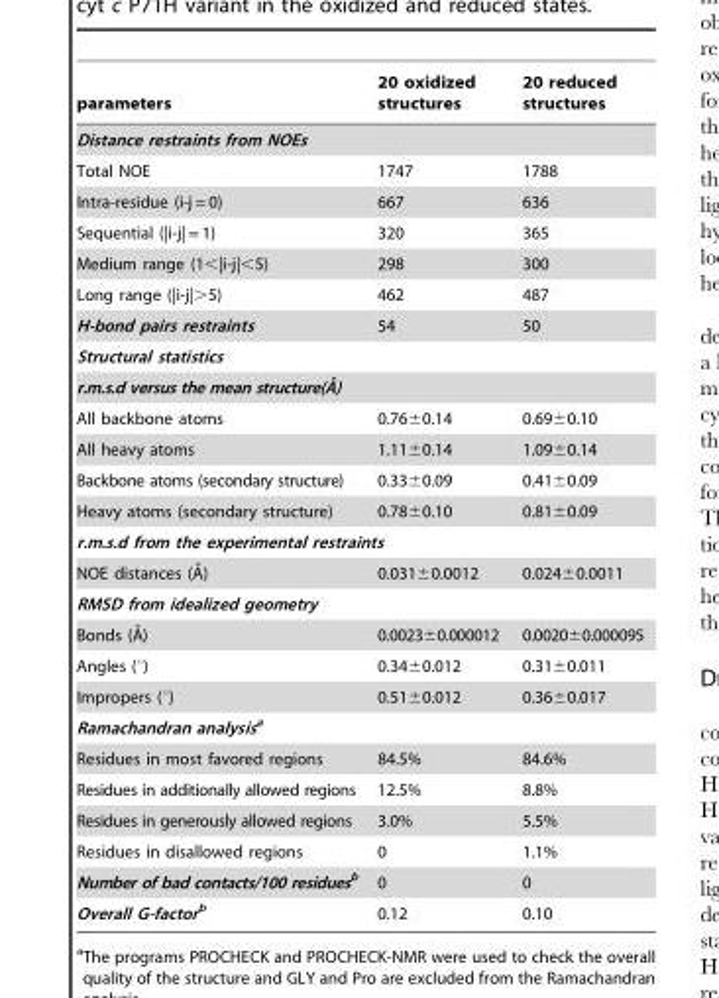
<table><thead><tr><td>parameters</td><td>20 oxidized structures</td><td>20 reduced structures</td></tr></thead><tbody><tr><td colspan="3">Distance restraints from NOEs</td></tr><tr><td>Total NOE</td><td>1747</td><td>1788</td></tr><tr><td>Intra-residue (i-j = 0)</td><td>667</td><td>636</td></tr><tr><td>Sequential (|i-j| = 1)</td><td>320</td><td>365</td></tr><tr><td>Medium range (1&lt;|i-j|&lt;5)</td><td>298</td><td>300</td></tr><tr><td>Long range (|i-j|&gt;5)</td><td>462</td><td>487</td></tr><tr><td>H-bond pairs restraints</td><td>54</td><td>50</td></tr><tr><td colspan="3">Structural statistics</td></tr><tr><td colspan="3">r.m.s.d versus the mean structure(A˚)</td></tr><tr><td>All backbone atoms</td><td>0.76±0.14</td><td>0.69±0.10</td></tr><tr><td>All heavy atoms</td><td>1.11±0.14</td><td>1.09±0.14</td></tr><tr><td>Backbone atoms (secondary structure)</td><td>0.33±0.09</td><td>0.41±0.09</td></tr><tr><td>Heavy atoms (secondary structure)</td><td>0.78±0.10</td><td>0.81±0.09</td></tr><tr><td colspan="3">r.m.s.d from the experimental restraints</td></tr><tr><td>NOE distances (A˚)</td><td>0.031±0.0012</td><td>0.024±0.0011</td></tr><tr><td colspan="3">RMSD from idealized geometry</td></tr><tr><td>Bonds (A˚)</td><td>0.0023±0.000012</td><td>0.0020±0.000095</td></tr><tr><td>Angles (°)</td><td>0.34±0.012</td><td>0.31±0.011</td></tr><tr><td>Impropers (°)</td><td>0.51±0.012</td><td>0.36±0.017</td></tr><tr><td colspan="3">Ramachandran analysisa</td></tr><tr><td>Residues in most favored regions</td><td>84.5%</td><td>84.6%</td></tr><tr><td>Residues in additionally allowed regions</td><td>12.5%</td><td>8.8%</td></tr><tr><td>Residues in generously allowed regions</td><td>3.0%</td><td>5.5%</td></tr><tr><td>Residues in disallowed regions</td><td>0</td><td>1.1%</td></tr><tr><td>Number of bad contacts/100 residuesb</td><td>0</td><td>0</td></tr><tr><td>Overall G-factorb</td><td>0.12</td><td>0.10</td></tr></tbody></table>